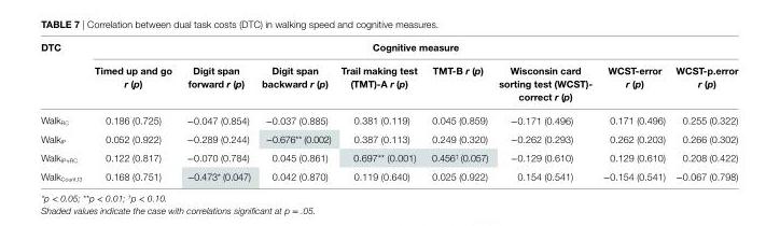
<table><thead><tr><td rowspan="2">DTc</td><td colspan="8">cognitive measure</td></tr><tr><td>Timed up and go r (p)</td><td>Digit span forward r (p)</td><td>Digit span backward r (p)</td><td>Trail making test (TMT)-a r (p)</td><td>TMT-B r (p)</td><td>Wisconsin card sorting test (WcsT)- correct r (p)</td><td>WcsT-error r (p)</td><td>WcsT-p.error r (p)</td></tr></thead><tbody><tr><td>Walk<sub>RC</sub></td><td>0.186 (0.725)</td><td>−0.047 (0.854)</td><td>−0.037 (0.885)</td><td>0.381 (0.119)</td><td>0.045 (0.859)</td><td>−0.171 (0.496)</td><td>0.171 (0.496)</td><td>0.255 (0.322)</td></tr><tr><td>Walk<sub>IP</sub></td><td>0.052 (0.922)</td><td>−0.289 (0.244)</td><td>−0.676** (0.002)</td><td>0.387 (0.113)</td><td>0.249 (0.320)</td><td>−0.262 (0.293)</td><td>0.262 (0.203)</td><td>0.266 (0.302)</td></tr><tr><td>Walk<sub>IP+RC</sub></td><td>0.122 (0.817)</td><td>−0.070 (0.784)</td><td>0.045 (0.861)</td><td>0.697** (0.001)</td><td>0.456<sup>†</sup> (0.057)</td><td>−0.129 (0.610)</td><td>0.129 (0.610)</td><td>0.208 (0.422)</td></tr><tr><td>Walk<sub>Count.f3</sub></td><td>0.168 (0.751)</td><td>−0.473* (0.047)</td><td>0.042 (0.870)</td><td>0.119 (0.640)</td><td>0.025 (0.922)</td><td>0.154 (0.541)</td><td>−0.154 (0.541)</td><td>−0.067 (0.798)</td></tr></tbody></table>